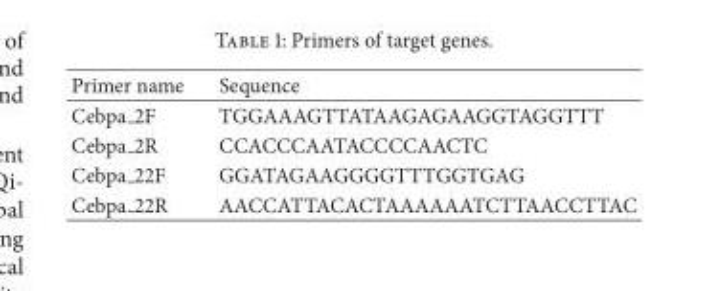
<table><thead><tr><td>Primer name</td><td>Sequence</td></tr></thead><tbody><tr><td>Cebpa 2F</td><td>TGGAAAGTTATAAGAGAAGGTAGGTTT</td></tr><tr><td>Cebpa 2R</td><td>CCACCCAATACCCCAACTC</td></tr><tr><td>Cebpa 22F</td><td>GGATAGAAGGGGTTTGGTGAG</td></tr><tr><td>Cebpa 22R</td><td>AACCATTACACTAAAAAATCTTAACCTTAC</td></tr></tbody></table>